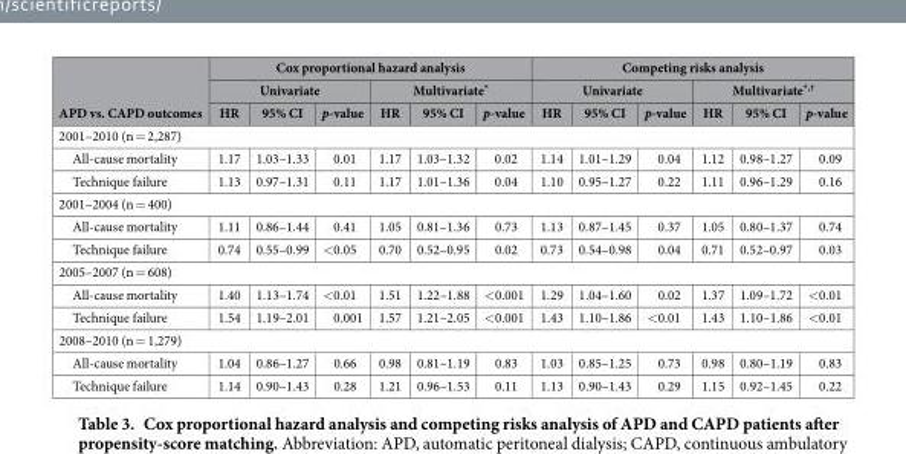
<table><thead><tr><td rowspan="3">APD vs. CAPD outcomes</td><td colspan="6">Cox proportional hazard analysis</td><td colspan="6">Competing risks analysis</td></tr><tr><td colspan="3">Univariate</td><td colspan="3">Multivariate*</td><td colspan="3">Univariate</td><td colspan="3">Multivariate*,†</td></tr><tr><td>HR</td><td>95% CI</td><td>p-value</td><td>HR</td><td>95% CI</td><td>p-value</td><td>HR</td><td>95% CI</td><td>p-value</td><td>HR</td><td>95% CI</td><td>p-value</td></tr></thead><tbody><tr><td colspan="13">2001–2010 (n = 2,287)</td></tr><tr><td>All-cause mortality</td><td>1.17</td><td>1.03–1.33</td><td>0.01</td><td>1.17</td><td>1.03–1.32</td><td>0.02</td><td>1.14</td><td>1.01–1.29</td><td>0.04</td><td>1.12</td><td>0.98–1.27</td><td>0.09</td></tr><tr><td>Technique failure</td><td>1.13</td><td>0.97–1.31</td><td>0.11</td><td>1.17</td><td>1.01–1.36</td><td>0.04</td><td>1.10</td><td>0.95–1.27</td><td>0.22</td><td>1.11</td><td>0.96–1.29</td><td>0.16</td></tr><tr><td colspan="13">2001–2004 (n = 400)</td></tr><tr><td>All-cause mortality</td><td>1.11</td><td>0.86–1.44</td><td>0.41</td><td>1.05</td><td>0.81–1.36</td><td>0.73</td><td>1.13</td><td>0.87–1.45</td><td>0.37</td><td>1.05</td><td>0.80–1.37</td><td>0.74</td></tr><tr><td>Technique failure</td><td>0.74</td><td>0.55–0.99</td><td>&lt; 0.05</td><td>0.70</td><td>0.52–0.95</td><td>0.02</td><td>0.73</td><td>0.54–0.98</td><td>0.04</td><td>0.71</td><td>0.52–0.97</td><td>0.03</td></tr><tr><td colspan="13">2005–2007 (n = 608)</td></tr><tr><td>All-cause mortality</td><td>1.40</td><td>1.13–1.74</td><td>&lt; 0.01</td><td>1.51</td><td>1.22–1.88</td><td>&lt; 0.001</td><td>1.29</td><td>1.04–1.60</td><td>0.02</td><td>1.37</td><td>1.09–1.72</td><td>&lt; 0.01</td></tr><tr><td>Technique failure</td><td>1.54</td><td>1.19–2.01</td><td>0.001</td><td>1.57</td><td>1.21–2.05</td><td>&lt; 0.001</td><td>1.43</td><td>1.10–1.86</td><td>&lt; 0.01</td><td>1.43</td><td>1.10–1.86</td><td>&lt; 0.01</td></tr><tr><td colspan="13">2008–2010 (n = 1,279)</td></tr><tr><td>All-cause mortality</td><td>1.04</td><td>0.86–1.27</td><td>0.66</td><td>0.98</td><td>0.81–1.19</td><td>0.83</td><td>1.03</td><td>0.85–1.25</td><td>0.73</td><td>0.98</td><td>0.80–1.19</td><td>0.83</td></tr><tr><td>Technique failure</td><td>1.14</td><td>0.90–1.43</td><td>0.28</td><td>1.21</td><td>0.96–1.53</td><td>0.11</td><td>1.13</td><td>0.90–1.43</td><td>0.29</td><td>1.15</td><td>0.92–1.45</td><td>0.22</td></tr></tbody></table>